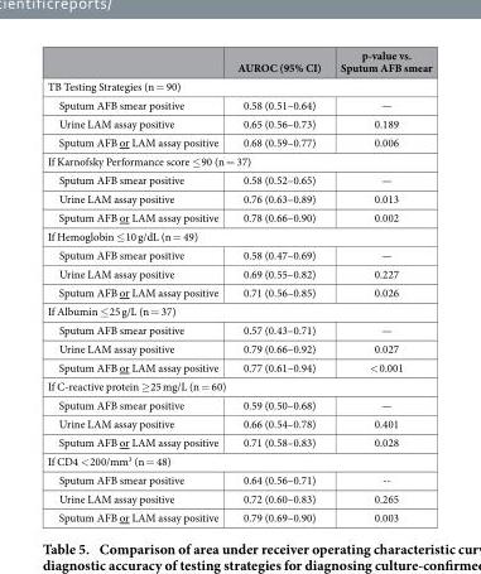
<table><thead><tr><td></td><td>AUROC (95% CI)</td><td>p-value vs. Sputum AFB smear</td></tr></thead><tbody><tr><td colspan="3">TB Testing Strategies (n = 90)</td></tr><tr><td>Sputum AFB smear positive</td><td>0.58 (0.51–0.64)</td><td>—</td></tr><tr><td>Urine LAM assay positive</td><td>0.65 (0.56–0.73)</td><td>0.189</td></tr><tr><td>Sputum AFB or LAM assay positive</td><td>0.68 (0.59–0.77)</td><td>0.006</td></tr><tr><td colspan="3">If Karnofsky Performance score ≤ 90 (n = 37)</td></tr><tr><td>Sputum AFB smear positive</td><td>0.58 (0.52–0.65)</td><td>—</td></tr><tr><td>Urine LAM assay positive</td><td>0.76 (0.63–0.89)</td><td>0.013</td></tr><tr><td>Sputum AFB or LAM assay positive</td><td>0.78 (0.66–0.90)</td><td>0.002</td></tr><tr><td colspan="3">If Hemoglobin ≤ 10 g/dL (n = 49)</td></tr><tr><td>Sputum AFB smear positive</td><td>0.58 (0.47–0.69)</td><td>—</td></tr><tr><td>Urine LAM assay positive</td><td>0.69 (0.55–0.82)</td><td>0.227</td></tr><tr><td>Sputum AFB or LAM assay positive</td><td>0.71 (0.56–0.85)</td><td>0.026</td></tr><tr><td colspan="3">If Albumin ≤ 25 g/L (n = 37)</td></tr><tr><td>Sputum AFB smear positive</td><td>0.57 (0.43–0.71)</td><td>—</td></tr><tr><td>Urine LAM assay positive</td><td>0.79 (0.66–0.92)</td><td>0.027</td></tr><tr><td>Sputum AFB or LAM assay positive</td><td>0.77 (0.61–0.94)</td><td>&lt; 0.001</td></tr><tr><td colspan="3">If C-reactive protein ≥ 25 mg/L (n = 60)</td></tr><tr><td>Sputum AFB smear positive</td><td>0.59 (0.50–0.68)</td><td>—</td></tr><tr><td>Urine LAM assay positive</td><td>0.66 (0.54–0.78)</td><td>0.401</td></tr><tr><td>Sputum AFB or LAM assay positive</td><td>0.71 (0.58–0.83)</td><td>0.028</td></tr><tr><td colspan="3">If CD4 &lt; 200/mm<sup>3</sup> (n = 48)</td></tr><tr><td>Sputum AFB smear positive</td><td>0.64 (0.56–0.71)</td><td>--</td></tr><tr><td>Urine LAM assay positive</td><td>0.72 (0.60–0.83)</td><td>0.265</td></tr><tr><td>Sputum AFB or LAM assay positive</td><td>0.79 (0.69–0.90)</td><td>0.003</td></tr></tbody></table>